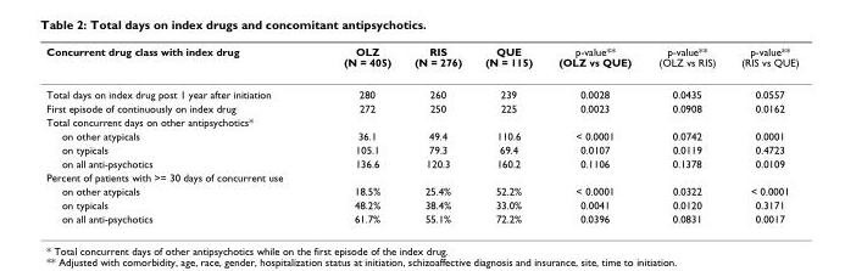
<table><thead><tr><td>Concurrent drug class with index drug</td><td>OLZ (N = 405)</td><td>RIS (N = 276)</td><td>QUE (N = 115)</td><td>p-value** (OLZ vs QUE)</td><td>p-value** (OLZ vs RIS)</td><td>p-value** (RIS vs QUE)</td></tr></thead><tbody><tr><td>Total days on index drug post 1 year after initiation</td><td>280</td><td>260</td><td>239</td><td>0.0028</td><td>0.0435</td><td>0.0557</td></tr><tr><td>First episode of continuously on index drug</td><td>272</td><td>250</td><td>225</td><td>0.0023</td><td>0.0908</td><td>0.0162</td></tr><tr><td colspan="7">Total concurrent days on other antipsychotics*</td></tr><tr><td>on other atypicals</td><td>36.1</td><td>49.4</td><td>110.6</td><td>&lt; 0.0001</td><td>0.0742</td><td>0.0001</td></tr><tr><td>on typicals</td><td>105.1</td><td>79.3</td><td>69.4</td><td>0.0107</td><td>0.0119</td><td>0.4723</td></tr><tr><td>on all anti-psychotics</td><td>136.6</td><td>120.3</td><td>160.2</td><td>0.1106</td><td>0.1378</td><td>0.0109</td></tr><tr><td colspan="7">Percent of patients with &gt;= 30 days of concurrent use</td></tr><tr><td>on other atypicals</td><td>18.5%</td><td>25.4%</td><td>52.2%</td><td>&lt; 0.0001</td><td>0.0322</td><td>&lt; 0.0001</td></tr><tr><td>on typicals</td><td>48.2%</td><td>38.4%</td><td>33.0%</td><td>0.0041</td><td>0.0120</td><td>0.3171</td></tr><tr><td>on all anti-psychotics</td><td>61.7%</td><td>55.1%</td><td>72.2%</td><td>0.0396</td><td>0.0831</td><td>0.0017</td></tr></tbody></table>